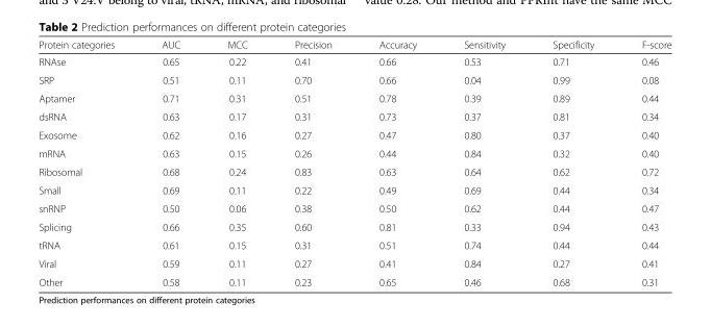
<table><thead><tr><td>Protein categories</td><td>AUC</td><td>MCC</td><td>Precision</td><td>Accuracy</td><td>Sensitivity</td><td>Specificity</td><td>F-score</td></tr></thead><tbody><tr><td>RNAse</td><td>0.65</td><td>0.22</td><td>0.41</td><td>0.66</td><td>0.53</td><td>0.71</td><td>0.46</td></tr><tr><td>SRP</td><td>0.51</td><td>0.11</td><td>0.70</td><td>0.66</td><td>0.04</td><td>0.99</td><td>0.08</td></tr><tr><td>Aptamer</td><td>0.71</td><td>0.31</td><td>0.51</td><td>0.78</td><td>0.39</td><td>0.89</td><td>0.44</td></tr><tr><td>dsRNA</td><td>0.63</td><td>0.17</td><td>0.31</td><td>0.73</td><td>0.37</td><td>0.81</td><td>0.34</td></tr><tr><td>Exosome</td><td>0.62</td><td>0.16</td><td>0.27</td><td>0.47</td><td>0.80</td><td>0.37</td><td>0.40</td></tr><tr><td>mRNA</td><td>0.63</td><td>0.15</td><td>0.26</td><td>0.44</td><td>0.84</td><td>0.32</td><td>0.40</td></tr><tr><td>Ribosomal</td><td>0.68</td><td>0.24</td><td>0.83</td><td>0.63</td><td>0.64</td><td>0.62</td><td>0.72</td></tr><tr><td>Small</td><td>0.69</td><td>0.11</td><td>0.22</td><td>0.49</td><td>0.69</td><td>0.44</td><td>0.34</td></tr><tr><td>snRNP</td><td>0.50</td><td>0.06</td><td>0.38</td><td>0.50</td><td>0.62</td><td>0.44</td><td>0.47</td></tr><tr><td>Splicing</td><td>0.66</td><td>0.35</td><td>0.60</td><td>0.81</td><td>0.33</td><td>0.94</td><td>0.43</td></tr><tr><td>tRNA</td><td>0.61</td><td>0.15</td><td>0.31</td><td>0.51</td><td>0.74</td><td>0.44</td><td>0.44</td></tr><tr><td>Viral</td><td>0.59</td><td>0.11</td><td>0.27</td><td>0.41</td><td>0.84</td><td>0.27</td><td>0.41</td></tr><tr><td>Other</td><td>0.58</td><td>0.11</td><td>0.23</td><td>0.65</td><td>0.46</td><td>0.68</td><td>0.31</td></tr></tbody></table>